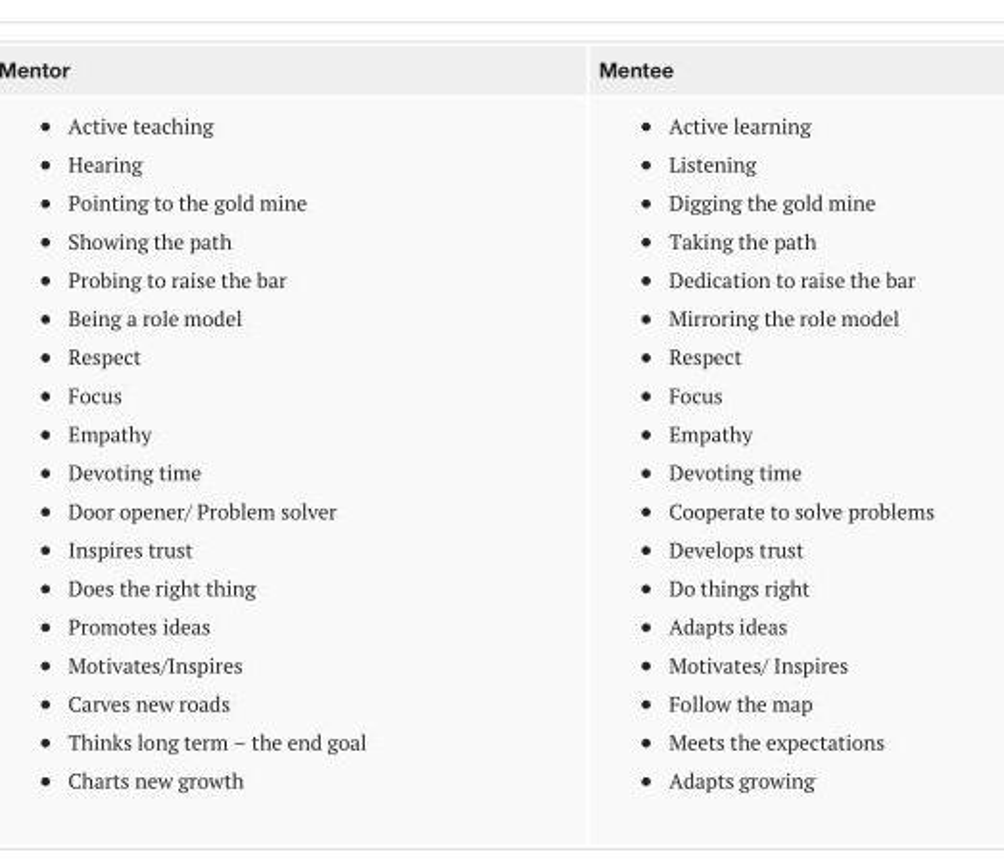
<table><tbody><tr><td></td><td>Mentee</td></tr><tr><td>Active teaching Hearing Pointing to the gold mine Showing the path Probing to raise the bar Being a role model Respect Focus Empathy Devoting time Door opener/ Problem solver Inspires trust Does the right thing Promotes ideas Motivates/Inspires Carves new roads Thinks long term – the end goal Charts new growth</td><td>Active learning Listening Digging the gold mine Taking the path Dedication to raise the bar Mirroring the role model Respect Focus Empathy Devoting time Cooperate to solve problems Develops trust Do things right Adapts ideas Motivates/ Inspires Follow the map Meets the expectations Adapts growing</td></tr></tbody></table>